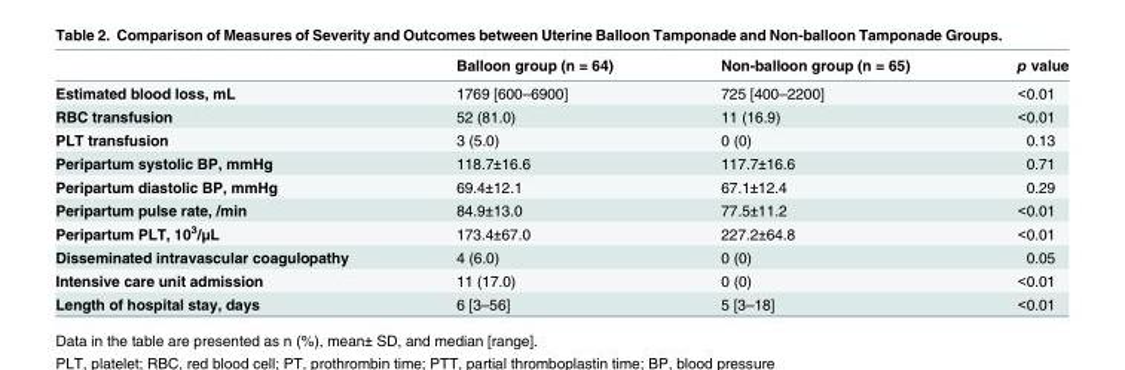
<table><thead><tr><td></td><td>Balloon group (n = 64)</td><td>Non-balloon group (n = 65)</td><td>p value</td></tr></thead><tbody><tr><td>Estimated blood loss, mL</td><td>1769 [600–6900]</td><td>725 [400–2200]</td><td>&lt;0.01</td></tr><tr><td>RBC transfusion</td><td>52 (81.0)</td><td>11 (16.9)</td><td>&lt;0.01</td></tr><tr><td>PLT transfusion</td><td>3 (5.0)</td><td>0 (0)</td><td>0.13</td></tr><tr><td>Peripartum systolic BP, mmHg</td><td>118.7±16.6</td><td>117.7±16.6</td><td>0.71</td></tr><tr><td>Peripartum diastolic BP, mmHg</td><td>69.4±12.1</td><td>67.1±12.4</td><td>0.29</td></tr><tr><td>Peripartum pulse rate, /min</td><td>84.9±13.0</td><td>77.5±11.2</td><td>&lt;0.01</td></tr><tr><td>Peripartum PLT, 10<sup>3</sup>/μL</td><td>173.4±67.0</td><td>227.2±64.8</td><td>&lt;0.01</td></tr><tr><td>Disseminated intravascular coagulopathy</td><td>4 (6.0)</td><td>0 (0)</td><td>0.05</td></tr><tr><td>Intensive care unit admission</td><td>11 (17.0)</td><td>0 (0)</td><td>&lt;0.01</td></tr><tr><td>Length of hospital stay, days</td><td>6 [3–56]</td><td>5 [3–18]</td><td>&lt;0.01</td></tr></tbody></table>